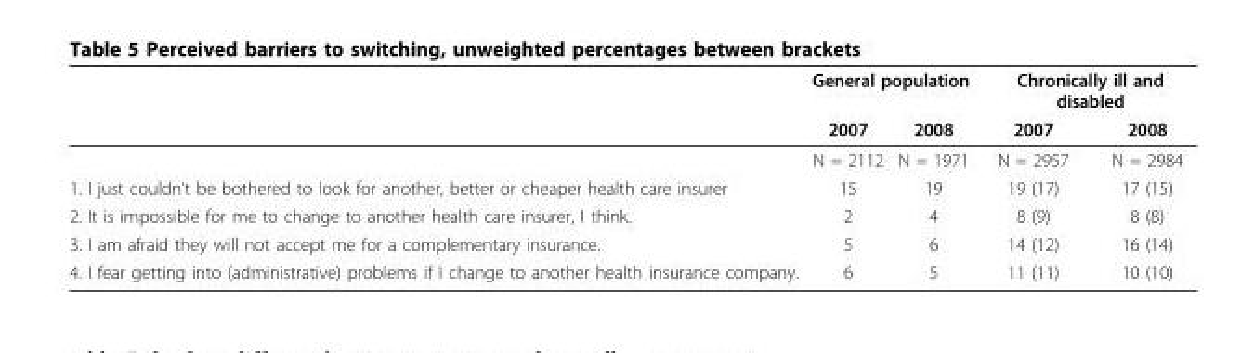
<table><thead><tr><td rowspan="2"></td><td colspan="2">General population</td><td colspan="2">Chronically ill and disabled</td></tr><tr><td>2007</td><td>2008</td><td>2007</td><td>2008</td></tr></thead><tbody><tr><td></td><td>N = 2112</td><td>N = 1971</td><td>N = 2957</td><td>N = 2984</td></tr><tr><td>1. I just couldn’t be bothered to look for another, better or cheaper health care insurer</td><td>15</td><td>19</td><td>19 (17)</td><td>17 (15)</td></tr><tr><td>2. It is impossible for me to change to another health care insurer, I think.</td><td>2</td><td>4</td><td>8 (9)</td><td>8 (8)</td></tr><tr><td>3. I am afraid they will not accept me for a complementary insurance.</td><td>5</td><td>6</td><td>14 (12)</td><td>16 (14)</td></tr><tr><td>4. I fear getting into (administrative) problems if I change to another health insurance company.</td><td>6</td><td>5</td><td>11 (11)</td><td>10 (10)</td></tr></tbody></table>